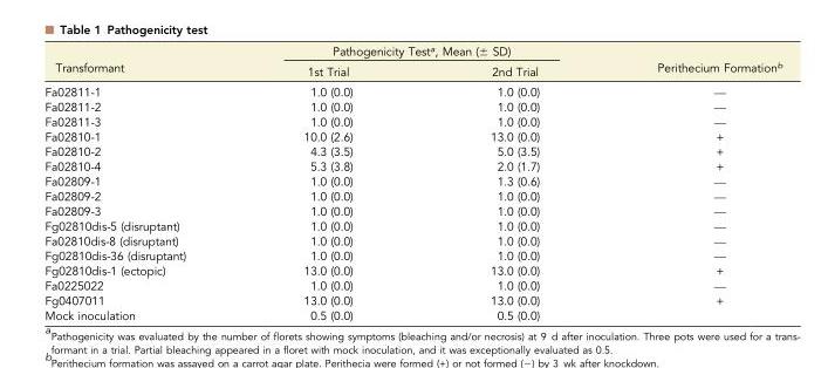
<table><thead><tr><td rowspan="2">Transformant</td><td colspan="2">Pathogenicity Test<sup>a</sup>, Mean (± SD)</td><td rowspan="2">Perithecium Formation<sup>b</sup></td></tr><tr><td>1st Trial</td><td>2nd Trial</td></tr></thead><tbody><tr><td>Fa02811-1</td><td>1.0 (0.0)</td><td>1.0 (0.0)</td><td>—</td></tr><tr><td>Fa02811-2</td><td>1.0 (0.0)</td><td>1.0 (0.0)</td><td>—</td></tr><tr><td>Fa02811-3</td><td>1.0 (0.0)</td><td>1.0 (0.0)</td><td>—</td></tr><tr><td>Fa02810-1</td><td>10.0 (2.6)</td><td>13.0 (0.0)</td><td>+</td></tr><tr><td>Fa02810-2</td><td>4.3 (3.5)</td><td>5.0 (3.5)</td><td>+</td></tr><tr><td>Fa02810-4</td><td>5.3 (3.8)</td><td>2.0 (1.7)</td><td>+</td></tr><tr><td>Fa02809-1</td><td>1.0 (0.0)</td><td>1.3 (0.6)</td><td>—</td></tr><tr><td>Fa02809-2</td><td>1.0 (0.0)</td><td>1.0 (0.0)</td><td>—</td></tr><tr><td>Fa02809-3</td><td>1.0 (0.0)</td><td>1.0 (0.0)</td><td>—</td></tr><tr><td>Fg02810dis-5 (disruptant)</td><td>1.0 (0.0)</td><td>1.0 (0.0)</td><td>—</td></tr><tr><td>Fa02810dis-8 (disruptant)</td><td>1.0 (0.0)</td><td>1.0 (0.0)</td><td>—</td></tr><tr><td>Fg02810dis-36 (disruptant)</td><td>1.0 (0.0)</td><td>1.0 (0.0)</td><td>—</td></tr><tr><td>Fg02810dis-1 (ectopic)</td><td>13.0 (0.0)</td><td>13.0 (0.0)</td><td>+</td></tr><tr><td>Fa0225022</td><td>1.0 (0.0)</td><td>1.0 (0.0)</td><td>—</td></tr><tr><td>Fg0407011</td><td>13.0 (0.0)</td><td>13.0 (0.0)</td><td>+</td></tr><tr><td>Mock inoculation</td><td>0.5 (0.0)</td><td>0.5 (0.0)</td><td></td></tr></tbody></table>